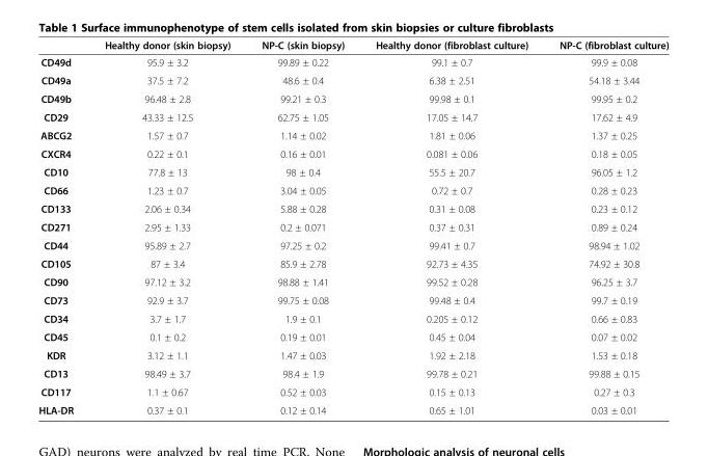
<table><thead><tr><td></td><td>Healthy donor (skin biopsy)</td><td>NP-C (skin biopsy)</td><td>Healthy donor (fibroblast culture)</td><td>NP-C (fibroblast culture)</td></tr></thead><tbody><tr><td>CD49d</td><td>95.9 ± 3.2</td><td>99.89 ± 0.22</td><td>99.1 ± 0.7</td><td>99.9 ± 0.08</td></tr><tr><td>CD49a</td><td>37.5 ± 7.2</td><td>48.6 ± 0.4</td><td>6.38 ± 2.51</td><td>54.18 ± 3.44</td></tr><tr><td>CD49b</td><td>96.48 ± 2.8</td><td>99.21 ± 0.3</td><td>99.98 ± 0.1</td><td>99.95 ± 0.2</td></tr><tr><td>CD29</td><td>43.33 ± 12.5</td><td>62.75 ± 1.05</td><td>17.05 ± 14.7</td><td>17.62 ± 4.9</td></tr><tr><td>ABCG2</td><td>1.57 ± 0.7</td><td>1.14 ± 0.02</td><td>1.81 ± 0.06</td><td>1.37 ± 0.25</td></tr><tr><td>CXCR4</td><td>0.22 ± 0.1</td><td>0.16 ± 0.01</td><td>0.081 ± 0.06</td><td>0.18 ± 0.05</td></tr><tr><td>CD10</td><td>77.8 ± 13</td><td>98 ± 0.4</td><td>55.5 ± 20.7</td><td>96.05 ± 1.2</td></tr><tr><td>CD66</td><td>1.23 ± 0.7</td><td>3.04 ± 0.05</td><td>0.72 ± 0.7</td><td>0.28 ± 0.23</td></tr><tr><td>CD133</td><td>2.06 ± 0.34</td><td>5.88 ± 0.28</td><td>0.31 ± 0.08</td><td>0.23 ± 0.12</td></tr><tr><td>CD271</td><td>2.95 ± 1.33</td><td>0.2 ± 0.071</td><td>0.37 ± 0.31</td><td>0.89 ± 0.24</td></tr><tr><td>CD44</td><td>95.89 ± 2.7</td><td>97.25 ± 0.2</td><td>99.41 ± 0.7</td><td>98.94 ± 1.02</td></tr><tr><td>CD105</td><td>87 ± 3.4</td><td>85.9 ± 2.78</td><td>92.73 ± 4.35</td><td>74.92 ± 30.8</td></tr><tr><td>CD90</td><td>97.12 ± 3.2</td><td>98.88 ± 1.41</td><td>99.52 ± 0.28</td><td>96.25 ± 3.7</td></tr><tr><td>CD73</td><td>92.9 ± 3.7</td><td>99.75 ± 0.08</td><td>99.48 ± 0.4</td><td>99.7 ± 0.19</td></tr><tr><td>CD34</td><td>3.7 ± 1.7</td><td>1.9 ± 0.1</td><td>0.205 ± 0.12</td><td>0.66 ± 0.83</td></tr><tr><td>CD45</td><td>0.1 ± 0.2</td><td>0.19 ± 0.01</td><td>0.45 ± 0.04</td><td>0.07 ± 0.02</td></tr><tr><td>KDR</td><td>3.12 ± 1.1</td><td>1.47 ± 0.03</td><td>1.92 ± 2.18</td><td>1.53 ± 0.18</td></tr><tr><td>CD13</td><td>98.49 ± 3.7</td><td>98.4 ± 1.9</td><td>99.78 ± 0.21</td><td>99.88 ± 0.15</td></tr><tr><td>CD117</td><td>1.1 ± 0.67</td><td>0.52 ± 0.03</td><td>0.15 ± 0.13</td><td>0.27 ± 0.3</td></tr><tr><td>HLA-DR</td><td>0.37 ± 0.1</td><td>0.12 ± 0.14</td><td>0.65 ± 1.01</td><td>0.03 ± 0.01</td></tr></tbody></table>